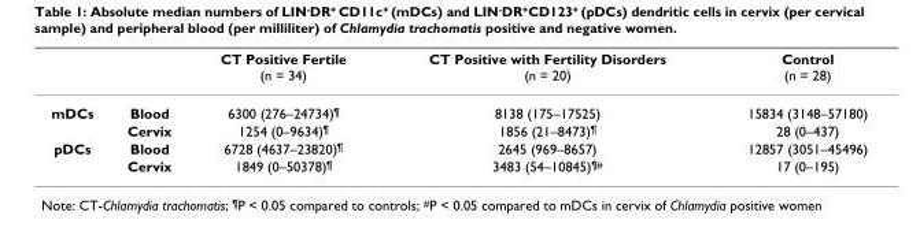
<table><thead><tr><td></td><td></td><td>CT Positive Fertile (n = 34)</td><td>CT Positive with Fertility Disorders (n = 20)</td><td>Control (n = 28)</td></tr></thead><tbody><tr><td rowspan="2">mDCs</td><td>Blood</td><td>6300 (276–24734)<sup>¶</sup></td><td>8138 (175–17525)</td><td>15834 (3148–57180)</td></tr><tr><td>Cervix</td><td>1254 (0–9634)<sup>¶</sup></td><td>1856 (21–8473)<sup>¶</sup></td><td>28 (0–437)</td></tr><tr><td rowspan="2">pDCs</td><td>Blood</td><td>6728 (4637–23820)<sup>¶</sup></td><td>2645 (969–8657)</td><td>12857 (3051–45496)</td></tr><tr><td>Cervix</td><td>1849 (0–50378)<sup>¶</sup></td><td>3483 (54–10845)<sup>¶#</sup></td><td>17 (0–195)</td></tr></tbody></table>